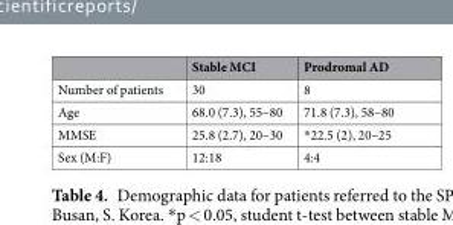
<table><thead><tr><td></td><td>Stable MCI</td><td>Prodromal AD</td></tr></thead><tbody><tr><td>Number of patients</td><td>30</td><td>8</td></tr><tr><td>Age</td><td>68.0 (7.3), 55–80</td><td>71.8 (7.3), 58–80</td></tr><tr><td>MMSE</td><td>25.8 (2.7), 20–30</td><td>*22.5 (2), 20–25</td></tr><tr><td>Sex (M:F)</td><td>12:18</td><td>4:4</td></tr></tbody></table>